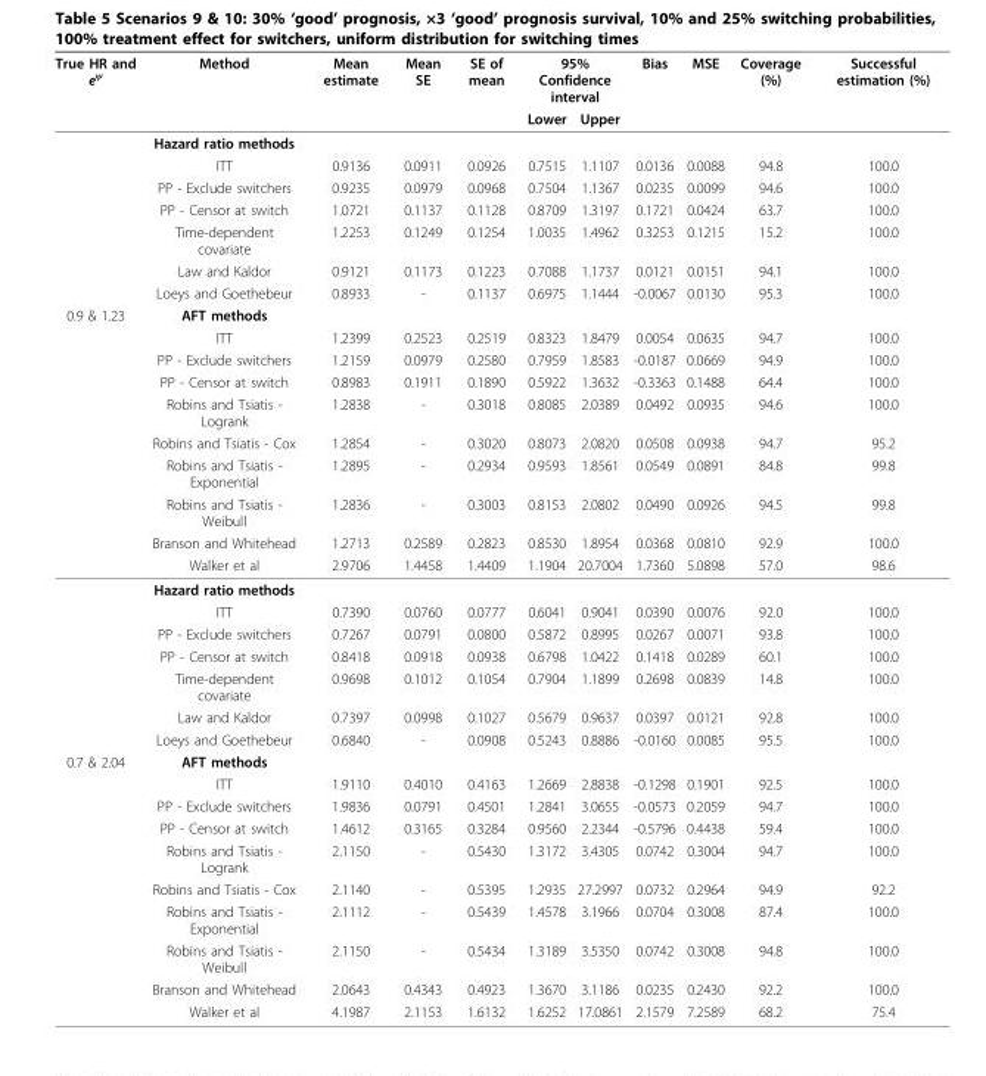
<table><thead><tr><td rowspan="2">True HR and e<sup>ψ</sup></td><td rowspan="2">Method</td><td rowspan="2">Mean estimate</td><td rowspan="2">Mean SE</td><td rowspan="2">SE of mean</td><td colspan="2">95% Confidence interval</td><td rowspan="2">Bias</td><td rowspan="2">MSE</td><td rowspan="2">Coverage (%)</td><td rowspan="2">Successful estimation (%)</td></tr><tr><td>Lower</td><td>Upper</td></tr></thead><tbody><tr><td></td><td>Hazard ratio methods</td><td></td><td></td><td></td><td></td><td></td><td></td><td></td><td></td><td></td></tr><tr><td></td><td>ITT</td><td>0.9136</td><td>0.0911</td><td>0.0926</td><td>0.7515</td><td>1.1107</td><td>0.0136</td><td>0.0088</td><td>94.8</td><td>100.0</td></tr><tr><td></td><td>PP - Exclude switchers</td><td>0.9235</td><td>0.0979</td><td>0.0968</td><td>0.7504</td><td>1.1367</td><td>0.0235</td><td>0.0099</td><td>94.6</td><td>100.0</td></tr><tr><td></td><td>PP - Censor at switch</td><td>1.0721</td><td>0.1137</td><td>0.1128</td><td>0.8709</td><td>1.3197</td><td>0.1721</td><td>0.0424</td><td>63.7</td><td>100.0</td></tr><tr><td></td><td>Time-dependent covariate</td><td>1.2253</td><td>0.1249</td><td>0.1254</td><td>1.0035</td><td>1.4962</td><td>0.3253</td><td>0.1215</td><td>15.2</td><td>100.0</td></tr><tr><td></td><td>Law and Kaldor</td><td>0.9121</td><td>0.1173</td><td>0.1223</td><td>0.7088</td><td>1.1737</td><td>0.0121</td><td>0.0151</td><td>94.1</td><td>100.0</td></tr><tr><td></td><td>Loeys and Goethebeur</td><td>0.8933</td><td>-</td><td>0.1137</td><td>0.6975</td><td>1.1444</td><td>-0.0067</td><td>0.0130</td><td>95.3</td><td>100.0</td></tr><tr><td rowspan="17">0.9 &amp; 1.23</td><td>AFT methods</td><td></td><td></td><td></td><td></td><td></td><td></td><td></td><td></td><td></td></tr><tr><td>ITT</td><td>1.2399</td><td>0.2523</td><td>0.2519</td><td>0.8323</td><td>1.8479</td><td>0.0054</td><td>0.0635</td><td>94.7</td><td>100.0</td></tr><tr><td>PP - Exclude switchers</td><td>1.2159</td><td>0.0979</td><td>0.2580</td><td>0.7959</td><td>1.8583</td><td>-0.0187</td><td>0.0669</td><td>94.9</td><td>100.0</td></tr><tr><td>PP - Censor at switch</td><td>0.8983</td><td>0.1911</td><td>0.1890</td><td>0.5922</td><td>1.3632</td><td>-0.3363</td><td>0.1488</td><td>64.4</td><td>100.0</td></tr><tr><td>Robins and Tsiatis - Logrank</td><td>1.2838</td><td>-</td><td>0.3018</td><td>0.8085</td><td>2.0389</td><td>0.0492</td><td>0.0935</td><td>94.6</td><td>100.0</td></tr><tr><td>Robins and Tsiatis - Cox</td><td>1.2854</td><td>-</td><td>0.3020</td><td>0.8073</td><td>2.0820</td><td>0.0508</td><td>0.0938</td><td>94.7</td><td>95.2</td></tr><tr><td>Robins and Tsiatis - Exponential</td><td>1.2895</td><td>-</td><td>0.2934</td><td>0.9593</td><td>1.8561</td><td>0.0549</td><td>0.0891</td><td>84.8</td><td>99.8</td></tr><tr><td>Robins and Tsiatis - Weibull</td><td>1.2836</td><td>-</td><td>0.3003</td><td>0.8153</td><td>2.0802</td><td>0.0490</td><td>0.0926</td><td>94.5</td><td>99.8</td></tr><tr><td>Branson and Whitehead</td><td>1.2713</td><td>0.2589</td><td>0.2823</td><td>0.8530</td><td>1.8954</td><td>0.0368</td><td>0.0810</td><td>92.9</td><td>100.0</td></tr><tr><td>Walker et al</td><td>2.9706</td><td>1.4458</td><td>1.4409</td><td>1.1904</td><td>20.7004</td><td>1.7360</td><td>5.0898</td><td>57.0</td><td>98.6</td></tr><tr><td>Hazard ratio methods</td><td></td><td></td><td></td><td></td><td></td><td></td><td></td><td></td><td></td></tr><tr><td>ITT</td><td>0.7390</td><td>0.0760</td><td>0.0777</td><td>0.6041</td><td>0.9041</td><td>0.0390</td><td>0.0076</td><td>92.0</td><td>100.0</td></tr><tr><td>PP - Exclude switchers</td><td>0.7267</td><td>0.0791</td><td>0.0800</td><td>0.5872</td><td>0.8995</td><td>0.0267</td><td>0.0071</td><td>93.8</td><td>100.0</td></tr><tr><td>PP - Censor at switch</td><td>0.8418</td><td>0.0918</td><td>0.0938</td><td>0.6798</td><td>1.0422</td><td>0.1418</td><td>0.0289</td><td>60.1</td><td>100.0</td></tr><tr><td>Time-dependent covariate</td><td>0.9698</td><td>0.1012</td><td>0.1054</td><td>0.7904</td><td>1.1899</td><td>0.2698</td><td>0.0839</td><td>14.8</td><td>100.0</td></tr><tr><td>Law and Kaldor</td><td>0.7397</td><td>0.0998</td><td>0.1027</td><td>0.5679</td><td>0.9637</td><td>0.0397</td><td>0.0121</td><td>92.8</td><td>100.0</td></tr><tr><td>Loeys and Goethebeur</td><td>0.6840</td><td>-</td><td>0.0908</td><td>0.5243</td><td>0.8886</td><td>-0.0160</td><td>0.0085</td><td>95.5</td><td>100.0</td></tr><tr><td rowspan="10">0.7 &amp; 2.04</td><td>AFT methods</td><td></td><td></td><td></td><td></td><td></td><td></td><td></td><td></td><td></td></tr><tr><td>ITT</td><td>1.9110</td><td>0.4010</td><td>0.4163</td><td>1.2669</td><td>2.8838</td><td>-0.1298</td><td>0.1901</td><td>92.5</td><td>100.0</td></tr><tr><td>PP - Exclude switchers</td><td>1.9836</td><td>0.0791</td><td>0.4501</td><td>1.2841</td><td>3.0655</td><td>-0.0573</td><td>0.2059</td><td>94.7</td><td>100.0</td></tr><tr><td>PP - Censor at switch</td><td>1.4612</td><td>0.3165</td><td>0.3284</td><td>0.9560</td><td>2.2344</td><td>-0.5796</td><td>0.4438</td><td>59.4</td><td>100.0</td></tr><tr><td>Robins and Tsiatis - Logrank</td><td>2.1150</td><td>-</td><td>0.5430</td><td>1.3172</td><td>3.4305</td><td>0.0742</td><td>0.3004</td><td>94.7</td><td>100.0</td></tr><tr><td>Robins and Tsiatis - Cox</td><td>2.1140</td><td>-</td><td>0.5395</td><td>1.2935</td><td>27.2997</td><td>0.0732</td><td>0.2964</td><td>94.9</td><td>92.2</td></tr><tr><td>Robins and Tsiatis - Exponential</td><td>2.1112</td><td>-</td><td>0.5439</td><td>1.4578</td><td>3.1966</td><td>0.0704</td><td>0.3008</td><td>87.4</td><td>100.0</td></tr><tr><td>Robins and Tsiatis - Weibull</td><td>2.1150</td><td>-</td><td>0.5434</td><td>1.3189</td><td>3.5350</td><td>0.0742</td><td>0.3008</td><td>94.8</td><td>100.0</td></tr><tr><td>Branson and Whitehead</td><td>2.0643</td><td>0.4343</td><td>0.4923</td><td>1.3670</td><td>3.1186</td><td>0.0235</td><td>0.2430</td><td>92.2</td><td>100.0</td></tr><tr><td>Walker et al</td><td>4.1987</td><td>2.1153</td><td>1.6132</td><td>1.6252</td><td>17.0861</td><td>2.1579</td><td>7.2589</td><td>68.2</td><td>75.4</td></tr></tbody></table>